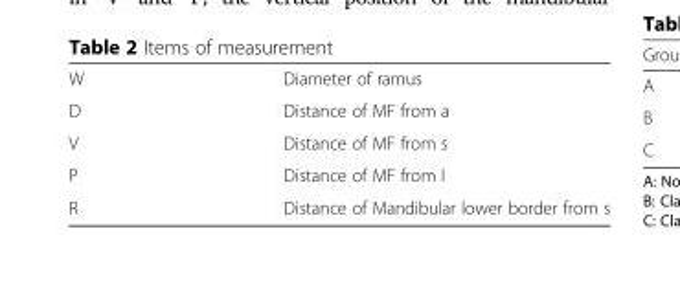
<table><tbody><tr><td>W</td><td>Diameter of ramus</td></tr><tr><td>D</td><td>Distance of MF from a</td></tr><tr><td>V</td><td>Distance of MF from s</td></tr><tr><td>P</td><td>Distance of MF from l</td></tr><tr><td>R</td><td>Distance of Mandibular lower border from s</td></tr></tbody></table>